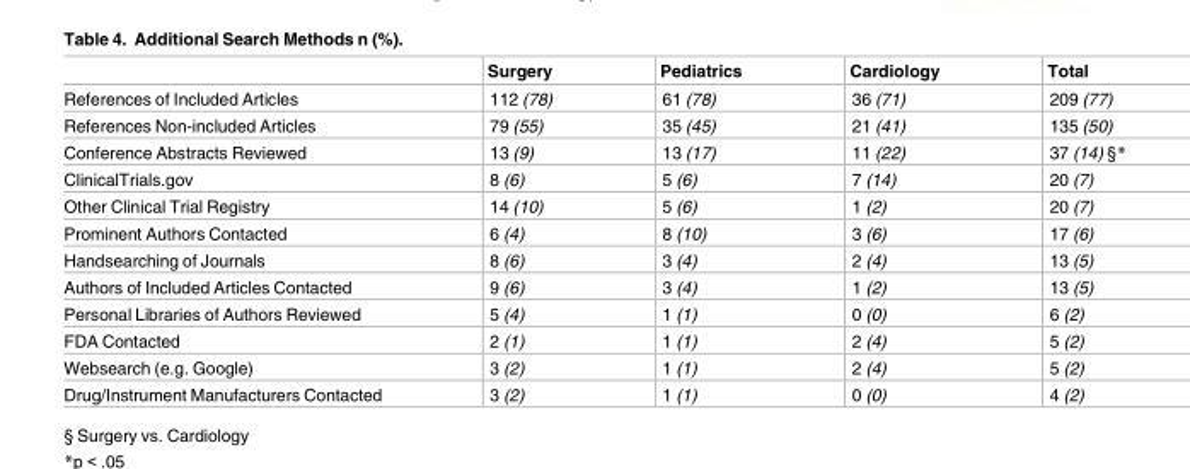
<table><thead><tr><td></td><td>Surgery</td><td>Pediatrics</td><td>Cardiology</td><td>Total</td></tr></thead><tbody><tr><td>References of Included Articles</td><td>112 (78)</td><td>61 (78)</td><td>36 (71)</td><td>209 (77)</td></tr><tr><td>References Non-included Articles</td><td>79 (55)</td><td>35 (45)</td><td>21 (41)</td><td>135 (50)</td></tr><tr><td>Conference Abstracts Reviewed</td><td>13 (9)</td><td>13 (17)</td><td>11 (22)</td><td>37 (14) §*</td></tr><tr><td>ClinicalTrials.gov</td><td>8 (6)</td><td>5 (6)</td><td>7 (14)</td><td>20 (7)</td></tr><tr><td>Other Clinical Trial Registry</td><td>14 (10)</td><td>5 (6)</td><td>1 (2)</td><td>20 (7)</td></tr><tr><td>Prominent Authors Contacted</td><td>6 (4)</td><td>8 (10)</td><td>3 (6)</td><td>17 (6)</td></tr><tr><td>Handsearching of Journals</td><td>8 (6)</td><td>3 (4)</td><td>2 (4)</td><td>13 (5)</td></tr><tr><td>Authors of Included Articles Contacted</td><td>9 (6)</td><td>3 (4)</td><td>1 (2)</td><td>13 (5)</td></tr><tr><td>Personal Libraries of Authors Reviewed</td><td>5 (4)</td><td>1 (1)</td><td>0 (0)</td><td>6 (2)</td></tr><tr><td>FDA Contacted</td><td>2 (1)</td><td>1 (1)</td><td>2 (4)</td><td>5 (2)</td></tr><tr><td>Websearch (e.g. Google)</td><td>3 (2)</td><td>1 (1)</td><td>2 (4)</td><td>5 (2)</td></tr><tr><td>Drug/Instrument Manufacturers Contacted</td><td>3 (2)</td><td>1 (1)</td><td>0 (0)</td><td>4 (2)</td></tr></tbody></table>